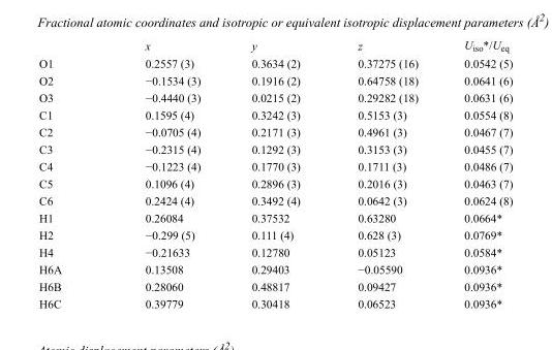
<table><thead><tr><td></td><td>x</td><td>y</td><td>z</td><td>U<sub>iso</sub>*/U<sub>eq</sub></td></tr></thead><tbody><tr><td>O1</td><td>0.2557 (3)</td><td>0.3634 (2)</td><td>0.37275 (16)</td><td>0.0542 (5)</td></tr><tr><td>O2</td><td>−0.1534 (3)</td><td>0.1916 (2)</td><td>0.64758 (18)</td><td>0.0641 (6)</td></tr><tr><td>O3</td><td>−0.4440 (3)</td><td>0.0215 (2)</td><td>0.29282 (18)</td><td>0.0631 (6)</td></tr><tr><td>C1</td><td>0.1595 (4)</td><td>0.3242 (3)</td><td>0.5153 (3)</td><td>0.0554 (8)</td></tr><tr><td>C2</td><td>−0.0705 (4)</td><td>0.2171 (3)</td><td>0.4961 (3)</td><td>0.0467 (7)</td></tr><tr><td>C3</td><td>−0.2315 (4)</td><td>0.1292 (3)</td><td>0.3153 (3)</td><td>0.0455 (7)</td></tr><tr><td>C4</td><td>−0.1223 (4)</td><td>0.1770 (3)</td><td>0.1711 (3)</td><td>0.0486 (7)</td></tr><tr><td>C5</td><td>0.1096 (4)</td><td>0.2896 (3)</td><td>0.2016 (3)</td><td>0.0463 (7)</td></tr><tr><td>C6</td><td>0.2424 (4)</td><td>0.3492 (4)</td><td>0.0642 (3)</td><td>0.0624 (8)</td></tr><tr><td>H1</td><td>0.26084</td><td>0.37532</td><td>0.63280</td><td>0.0664*</td></tr><tr><td>H2</td><td>−0.299 (5)</td><td>0.111 (4)</td><td>0.628 (3)</td><td>0.0769*</td></tr><tr><td>H4</td><td>−0.21633</td><td>0.12780</td><td>0.05123</td><td>0.0584*</td></tr><tr><td>H6A</td><td>0.13508</td><td>0.29403</td><td>−0.05590</td><td>0.0936*</td></tr><tr><td>H6B</td><td>0.28060</td><td>0.48817</td><td>0.09427</td><td>0.0936*</td></tr><tr><td>H6C</td><td>0.39779</td><td>0.30418</td><td>0.06523</td><td>0.0936*</td></tr></tbody></table>